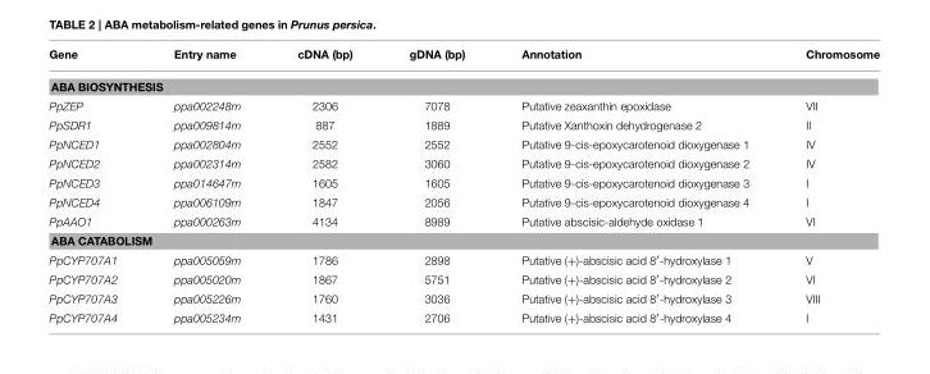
<table><thead><tr><td>Gene</td><td>Entry name</td><td>cDNA (bp)</td><td>gDNA (bp)</td><td>Annotation</td><td>Chromosome</td></tr></thead><tbody><tr><td colspan="6">ABA BIOSYNTHESIS</td></tr><tr><td>PpZEP</td><td>ppa002248m</td><td>2306</td><td>7078</td><td>Putative zeaxanthin epoxidase</td><td>VII</td></tr><tr><td>PpSDR1</td><td>ppa009814m</td><td>887</td><td>1889</td><td>Putative Xanthoxin dehydrogenase 2</td><td>II</td></tr><tr><td>PpNCED1</td><td>ppa002804m</td><td>2552</td><td>2552</td><td>Putative 9-cis-epoxycarotenoid dioxygenase 1</td><td>IV</td></tr><tr><td>PpNCED2</td><td>ppa002314m</td><td>2582</td><td>3060</td><td>Putative 9-cis-epoxycarotenoid dioxygenase 2</td><td>IV</td></tr><tr><td>PpNCED3</td><td>ppa014647m</td><td>1605</td><td>1605</td><td>Putative 9-cis-epoxycarotenoid dioxygenase 3</td><td>I</td></tr><tr><td>PpNCED4</td><td>ppa006109m</td><td>1847</td><td>2056</td><td>Putative 9-cis-epoxycarotenoid dioxygenase 4</td><td>I</td></tr><tr><td>PpAAO1</td><td>ppa000263m</td><td>4134</td><td>8989</td><td>Putative abscisic-aldehyde oxidase 1</td><td>VI</td></tr><tr><td colspan="6">ABA CATABOLISM</td></tr><tr><td>PpCYP707A1</td><td>ppa005059m</td><td>1786</td><td>2898</td><td>Putative (+)-abscisic acid 8′-hydroxylase 1</td><td>V</td></tr><tr><td>PpCYP707A2</td><td>ppa005020m</td><td>1867</td><td>5751</td><td>Putative (+)-abscisic acid 8′-hydroxylase 2</td><td>VI</td></tr><tr><td>PpCYP707A3</td><td>ppa005226m</td><td>1760</td><td>3036</td><td>Putative (+)-abscisic acid 8′-hydroxylase 3</td><td>VIII</td></tr><tr><td>PpCYP707A4</td><td>ppa005234m</td><td>1431</td><td>2706</td><td>Putative (+)-abscisic acid 8′-hydroxylase 4</td><td>I</td></tr></tbody></table>